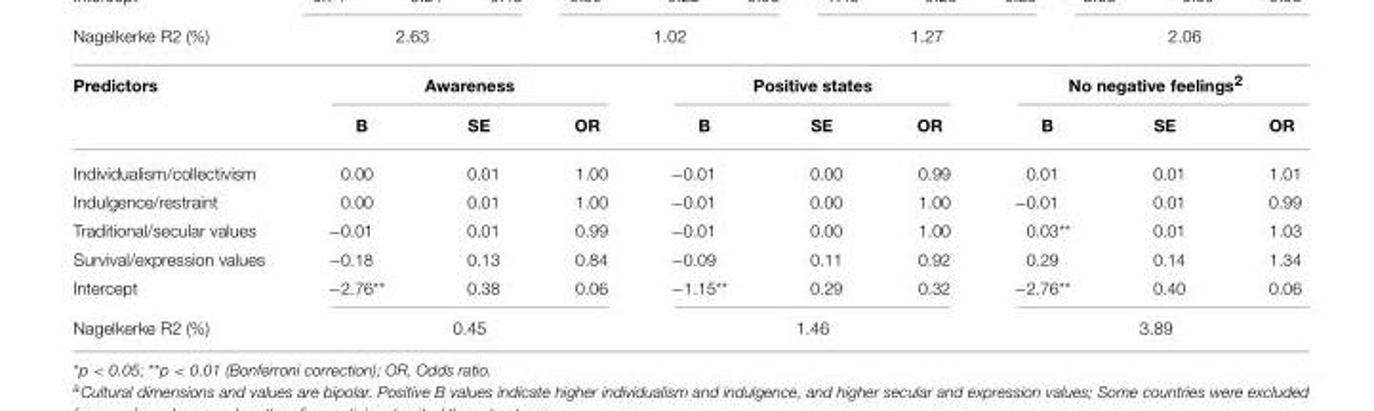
<table><thead><tr><td rowspan="2">Predictors</td><td colspan="3">Awareness</td><td colspan="3">Positive states</td><td colspan="3">No negative feelings<sup>2</sup></td></tr><tr><td>B</td><td>SE</td><td>OR</td><td>B</td><td>SE</td><td>OR</td><td>B</td><td>SE</td><td>OR</td></tr></thead><tbody><tr><td>Individualism/collectivism</td><td>0.00</td><td>0.01</td><td>1.00</td><td>−0.01</td><td>0.00</td><td>0.99</td><td>0.01</td><td>0.01</td><td>1.01</td></tr><tr><td>Indulgence/restraint</td><td>0.00</td><td>0.01</td><td>1.00</td><td>−0.01</td><td>0.00</td><td>1.00</td><td>−0.01</td><td>0.01</td><td>0.99</td></tr><tr><td>Traditional/secular values</td><td>−0.01</td><td>0.01</td><td>0.99</td><td>−0.01</td><td>0.00</td><td>1.00</td><td>0.03**</td><td>0.01</td><td>1.03</td></tr><tr><td>Survival/expression values</td><td>−0.18</td><td>0.13</td><td>0.84</td><td>−0.09</td><td>0.11</td><td>0.92</td><td>0.29</td><td>0.14</td><td>1.34</td></tr><tr><td>Intercept</td><td>−2.76**</td><td>0.38</td><td>0.06</td><td>−1.15**</td><td>0.29</td><td>0.32</td><td>−2.76**</td><td>0.40</td><td>0.06</td></tr><tr><td>Nagelkerke R2 (%)</td><td colspan="3">0.45</td><td colspan="3">1.46</td><td colspan="3">3.89</td></tr></tbody></table>